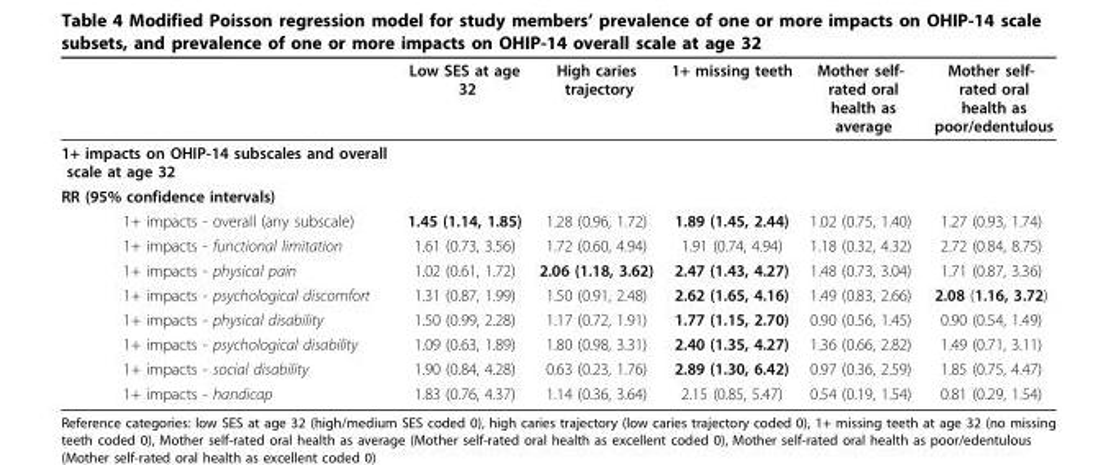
<table><thead><tr><td></td><td>Low SES at age 32</td><td>High caries trajectory</td><td>1+ missing teeth</td><td>Mother self- rated oral health as average</td><td>Mother self- rated oral health as poor/edentulous</td></tr></thead><tbody><tr><td colspan="6">1+ impacts on OHIP-14 subscales and overall scale at age 32</td></tr><tr><td colspan="6">RR (95% confidence intervals)</td></tr><tr><td>1+ impacts - overall (any subscale)</td><td>1.45 (1.14, 1.85)</td><td>1.28 (0.96, 1.72)</td><td>1.89 (1.45, 2.44)</td><td>1.02 (0.75, 1.40)</td><td>1.27 (0.93, 1.74)</td></tr><tr><td>1+ impacts - functional limitation</td><td>1.61 (0.73, 3.56)</td><td>1.72 (0.60, 4.94)</td><td>1.91 (0.74, 4.94)</td><td>1.18 (0.32, 4.32)</td><td>2.72 (0.84, 8.75)</td></tr><tr><td>1+ impacts - physical pain</td><td>1.02 (0.61, 1.72)</td><td>2.06 (1.18, 3.62)</td><td>2.47 (1.43, 4.27)</td><td>1.48 (0.73, 3.04)</td><td>1.71 (0.87, 3.36)</td></tr><tr><td>1+ impacts - psychological discomfort</td><td>1.31 (0.87, 1.99)</td><td>1.50 (0.91, 2.48)</td><td>2.62 (1.65, 4.16)</td><td>1.49 (0.83, 2.66)</td><td>2.08 (1.16, 3.72)</td></tr><tr><td>1+ impacts - physical disability</td><td>1.50 (0.99, 2.28)</td><td>1.17 (0.72, 1.91)</td><td>1.77 (1.15, 2.70)</td><td>0.90 (0.56, 1.45)</td><td>0.90 (0.54, 1.49)</td></tr><tr><td>1+ impacts - psychological disability</td><td>1.09 (0.63, 1.89)</td><td>1.80 (0.98, 3.31)</td><td>2.40 (1.35, 4.27)</td><td>1.36 (0.66, 2.82)</td><td>1.49 (0.71, 3.11)</td></tr><tr><td>1+ impacts - social disability</td><td>1.90 (0.84, 4.28)</td><td>0.63 (0.23, 1.76)</td><td>2.89 (1.30, 6.42)</td><td>0.97 (0.36, 2.59)</td><td>1.85 (0.75, 4.47)</td></tr><tr><td>1+ impacts - handicap</td><td>1.83 (0.76, 4.37)</td><td>1.14 (0.36, 3.64)</td><td>2.15 (0.85, 5.47)</td><td>0.54 (0.19, 1.54)</td><td>0.81 (0.29, 1.54)</td></tr></tbody></table>